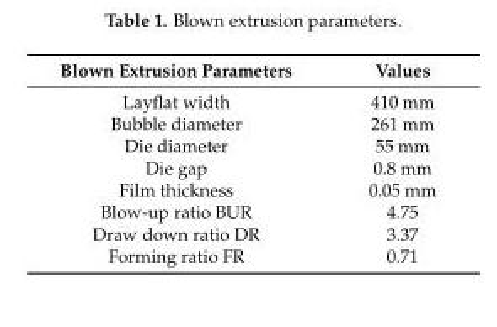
<table><thead><tr><td>Blown Extrusion Parameters</td><td>Values</td></tr></thead><tbody><tr><td>Layflat width</td><td>410 mm</td></tr><tr><td>Bubble diameter</td><td>261 mm</td></tr><tr><td>Die diameter</td><td>55 mm</td></tr><tr><td>Die gap</td><td>0.8 mm</td></tr><tr><td>Film thickness</td><td>0.05 mm</td></tr><tr><td>Blow-up ratio BUR</td><td>4.75</td></tr><tr><td>Draw down ratio DR</td><td>3.37</td></tr><tr><td>Forming ratio FR</td><td>0.71</td></tr></tbody></table>